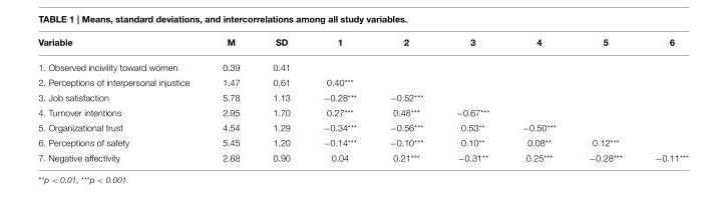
<table><thead><tr><td>Variable</td><td>M</td><td>SD</td><td>1</td><td>2</td><td>3</td><td>4</td><td>5</td><td>6</td></tr></thead><tbody><tr><td>1. Observed incivility toward women</td><td>0.39</td><td>0.41</td><td></td><td></td><td></td><td></td><td></td><td></td></tr><tr><td>2. Perceptions of interpersonal injustice</td><td>1.47</td><td>0.61</td><td>0.40***</td><td></td><td></td><td></td><td></td><td></td></tr><tr><td>3. Job satisfaction</td><td>5.78</td><td>1.13</td><td>−0.28***</td><td>−0.52***</td><td></td><td></td><td></td><td></td></tr><tr><td>4. Turnover intentions</td><td>2.95</td><td>1.70</td><td>0.27***</td><td>0.48***</td><td>−0.67***</td><td></td><td></td><td></td></tr><tr><td>5. Organizational trust</td><td>4.54</td><td>1.29</td><td>−0.34***</td><td>−0.56***</td><td>0.53**</td><td>−0.50***</td><td></td><td></td></tr><tr><td>6. Perceptions of safety</td><td>5.45</td><td>1.20</td><td>−0.14***</td><td>−0.10***</td><td>0.10**</td><td>0.08**</td><td>0.12***</td><td></td></tr><tr><td>7. Negative affectivity</td><td>2.68</td><td>0.90</td><td>0.04</td><td>0.21***</td><td>−0.31**</td><td>0.25***</td><td>−0.28***</td><td>−0.11***</td></tr></tbody></table>